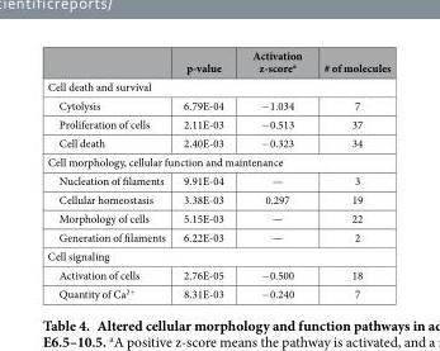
<table><thead><tr><td></td><td>p-value</td><td>Activation z-score<sup>a</sup></td><td># of molecules</td></tr></thead><tbody><tr><td colspan="4">Cell death and survival</td></tr><tr><td>Cytolysis</td><td>6.79E-04</td><td>− 1.034</td><td>7</td></tr><tr><td>Proliferation of cells</td><td>2.11E-03</td><td>− 0.513</td><td>37</td></tr><tr><td>Cell death</td><td>2.40E-03</td><td>− 0.323</td><td>34</td></tr><tr><td colspan="4">Cell morphology, cellular function and maintenance</td></tr><tr><td>Nucleation of filaments</td><td>9.91E-04</td><td>—</td><td>3</td></tr><tr><td>Cellular homeostasis</td><td>3.38E-03</td><td>0.297</td><td>19</td></tr><tr><td>Morphology of cells</td><td>5.15E-03</td><td>—</td><td>22</td></tr><tr><td>Generation of filaments</td><td>6.22E-03</td><td>—</td><td>2</td></tr><tr><td colspan="4">Cell signaling</td></tr><tr><td>Activation of cells</td><td>2.76E-05</td><td>− 0.500</td><td>18</td></tr><tr><td>Quantity of Ca<sup>2+</sup></td><td>8.31E-03</td><td>− 0.240</td><td>7</td></tr></tbody></table>